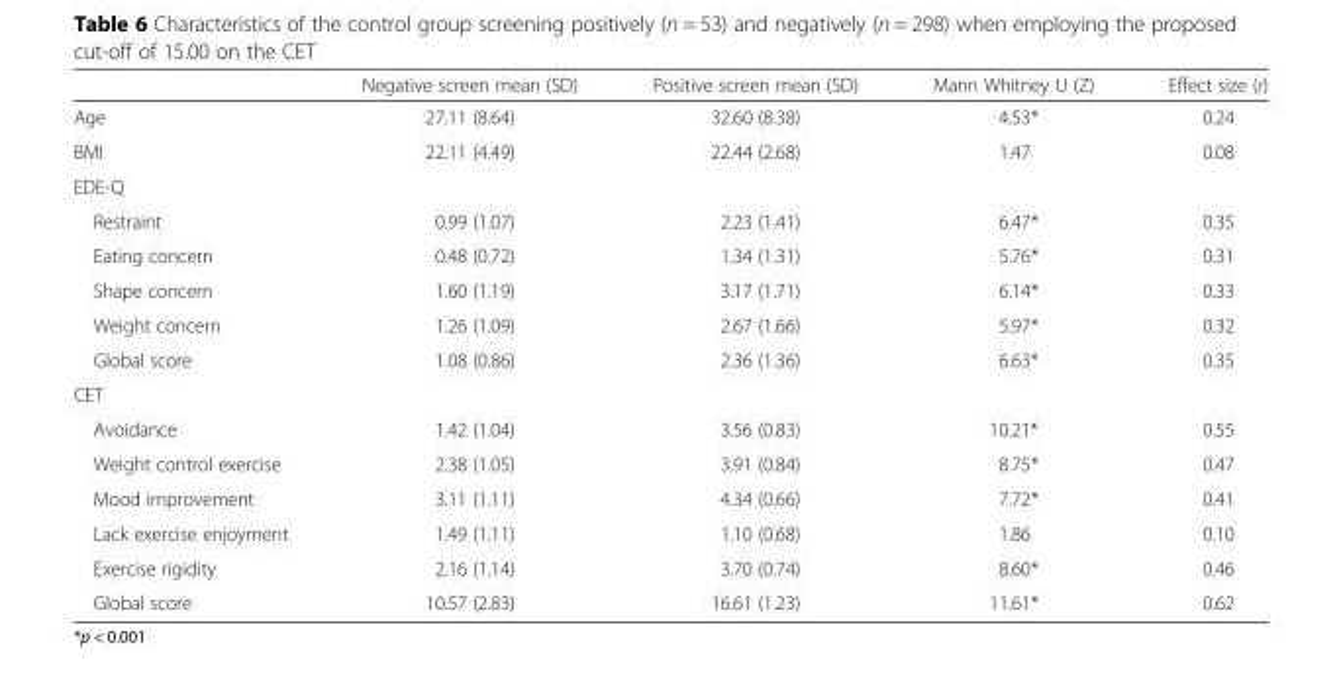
<table><thead><tr><td></td><td>Negative screen mean (SD)</td><td>Positive screen mean (SD)</td><td>Mann Whitney U (Z)</td><td>Effect size (r)</td></tr></thead><tbody><tr><td>Age</td><td>27.11 (8.64)</td><td>32.60 (8.38)</td><td>4.53*</td><td>0.24</td></tr><tr><td>BMI</td><td>22.11 (4.49)</td><td>22.44 (2.68)</td><td>1.47</td><td>0.08</td></tr><tr><td colspan="5">EDE-Q</td></tr><tr><td>Restraint</td><td>0.99 (1.07)</td><td>2.23 (1.41)</td><td>6.47*</td><td>0.35</td></tr><tr><td>Eating concern</td><td>0.48 (0.72)</td><td>1.34 (1.31)</td><td>5.76*</td><td>0.31</td></tr><tr><td>Shape concern</td><td>1.60 (1.19)</td><td>3.17 (1.71)</td><td>6.14*</td><td>0.33</td></tr><tr><td>Weight concern</td><td>1.26 (1.09)</td><td>2.67 (1.66)</td><td>5.97*</td><td>0.32</td></tr><tr><td>Global score</td><td>1.08 (0.86)</td><td>2.36 (1.36)</td><td>6.63*</td><td>0.35</td></tr><tr><td colspan="5">CET</td></tr><tr><td>Avoidance</td><td>1.42 (1.04)</td><td>3.56 (0.83)</td><td>10.21*</td><td>0.55</td></tr><tr><td>Weight control exercise</td><td>2.38 (1.05)</td><td>3.91 (0.84)</td><td>8.75*</td><td>0.47</td></tr><tr><td>Mood improvement</td><td>3.11 (1.11)</td><td>4.34 (0.66)</td><td>7.72*</td><td>0.41</td></tr><tr><td>Lack exercise enjoyment</td><td>1.49 (1.11)</td><td>1.10 (0.68)</td><td>1.86</td><td>0.10</td></tr><tr><td>Exercise rigidity</td><td>2.16 (1.14)</td><td>3.70 (0.74)</td><td>8.60*</td><td>0.46</td></tr><tr><td>Global score</td><td>10.57 (2.83)</td><td>16.61 (1.23)</td><td>11.61*</td><td>0.62</td></tr></tbody></table>